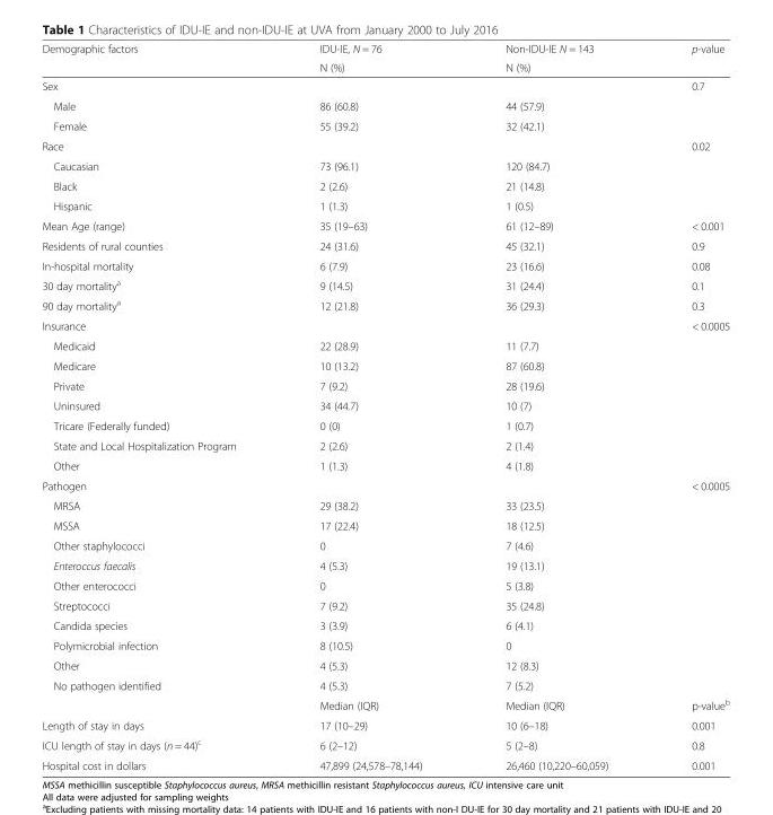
<table><thead><tr><td rowspan="2">Demographic factors</td><td rowspan="2">IDU-IE, N = 76 N (%)</td><td rowspan="2">Non-IDU-IE N = 143 N (%)</td><td rowspan="2">p-value</td></tr><tr></tr></thead><tbody><tr><td colspan="3">Sex</td><td>0.7</td></tr><tr><td>Male</td><td>86 (60.8)</td><td>44 (57.9)</td><td></td></tr><tr><td>Female</td><td>55 (39.2)</td><td>32 (42.1)</td><td></td></tr><tr><td colspan="3">Race</td><td>0.02</td></tr><tr><td>Caucasian</td><td>73 (96.1)</td><td>120 (84.7)</td><td></td></tr><tr><td>Black</td><td>2 (2.6)</td><td>21 (14.8)</td><td></td></tr><tr><td>Hispanic</td><td>1 (1.3)</td><td>1 (0.5)</td><td></td></tr><tr><td>Mean Age (range)</td><td>35 (19–63)</td><td>61 (12–89)</td><td>&lt; 0.001</td></tr><tr><td>Residents of rural counties</td><td>24 (31.6)</td><td>45 (32.1)</td><td>0.9</td></tr><tr><td>In-hospital mortality</td><td>6 (7.9)</td><td>23 (16.6)</td><td>0.08</td></tr><tr><td>30 day mortality<sup>a</sup></td><td>9 (14.5)</td><td>31 (24.4)</td><td>0.1</td></tr><tr><td>90 day mortality<sup>a</sup></td><td>12 (21.8)</td><td>36 (29.3)</td><td>0.3</td></tr><tr><td colspan="3">Insurance</td><td>&lt; 0.0005</td></tr><tr><td>Medicaid</td><td>22 (28.9)</td><td>11 (7.7)</td><td></td></tr><tr><td>Medicare</td><td>10 (13.2)</td><td>87 (60.8)</td><td></td></tr><tr><td>Private</td><td>7 (9.2)</td><td>28 (19.6)</td><td></td></tr><tr><td>Uninsured</td><td>34 (44.7)</td><td>10 (7)</td><td></td></tr><tr><td>Tricare (Federally funded)</td><td>0 (0)</td><td>1 (0.7)</td><td></td></tr><tr><td>State and Local Hospitalization Program</td><td>2 (2.6)</td><td>2 (1.4)</td><td></td></tr><tr><td>Other</td><td>1 (1.3)</td><td>4 (1.8)</td><td></td></tr><tr><td colspan="3">Pathogen</td><td>&lt; 0.0005</td></tr><tr><td>MRSA</td><td>29 (38.2)</td><td>33 (23.5)</td><td></td></tr><tr><td>MSSA</td><td>17 (22.4)</td><td>18 (12.5)</td><td></td></tr><tr><td>Other staphylococci</td><td>0</td><td>7 (4.6)</td><td></td></tr><tr><td>Enteroccus faecalis</td><td>4 (5.3)</td><td>19 (13.1)</td><td></td></tr><tr><td>Other enterococci</td><td>0</td><td>5 (3.8)</td><td></td></tr><tr><td>Streptococci</td><td>7 (9.2)</td><td>35 (24.8)</td><td></td></tr><tr><td>Candida species</td><td>3 (3.9)</td><td>6 (4.1)</td><td></td></tr><tr><td>Polymicrobial infection</td><td>8 (10.5)</td><td>0</td><td></td></tr><tr><td>Other</td><td>4 (5.3)</td><td>12 (8.3)</td><td></td></tr><tr><td rowspan="2">No pathogen identified</td><td>4 (5.3)</td><td>7 (5.2)</td><td></td></tr><tr><td>Median (IQR)</td><td>Median (IQR)</td><td>p-value<sup>b</sup></td></tr><tr><td>Length of stay in days</td><td>17 (10–29)</td><td>10 (6–18)</td><td>0.001</td></tr><tr><td>ICU length of stay in days (n = 44)<sup>c</sup></td><td>6 (2–12)</td><td>5 (2–8)</td><td>0.8</td></tr><tr><td>Hospital cost in dollars</td><td>47,899 (24,578–78,144)</td><td>26,460 (10,220–60,059)</td><td>0.001</td></tr></tbody></table>